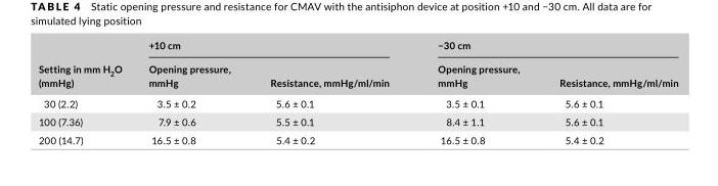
<table><thead><tr><td rowspan="2">Setting in mm H<sub>2</sub>O (mmHg)</td><td colspan="2">+10 cm</td><td colspan="2">−30 cm</td></tr><tr><td>Opening pressure, mmHg</td><td>Resistance, mmHg/ml/min</td><td>Opening pressure, mmHg</td><td>Resistance, mmHg/ml/min</td></tr></thead><tbody><tr><td>30 (2.2)</td><td>3.5 ± 0.2</td><td>5.6 ± 0.1</td><td>3.5 ± 0.1</td><td>5.6 ± 0.1</td></tr><tr><td>100 (7.36)</td><td>7.9 ± 0.6</td><td>5.5 ± 0.1</td><td>8.4 ± 1.1</td><td>5.6 ± 0.1</td></tr><tr><td>200 (14.7)</td><td>16.5 ± 0.8</td><td>5.4 ± 0.2</td><td>16.5 ± 0.8</td><td>5.4 ± 0.2</td></tr></tbody></table>